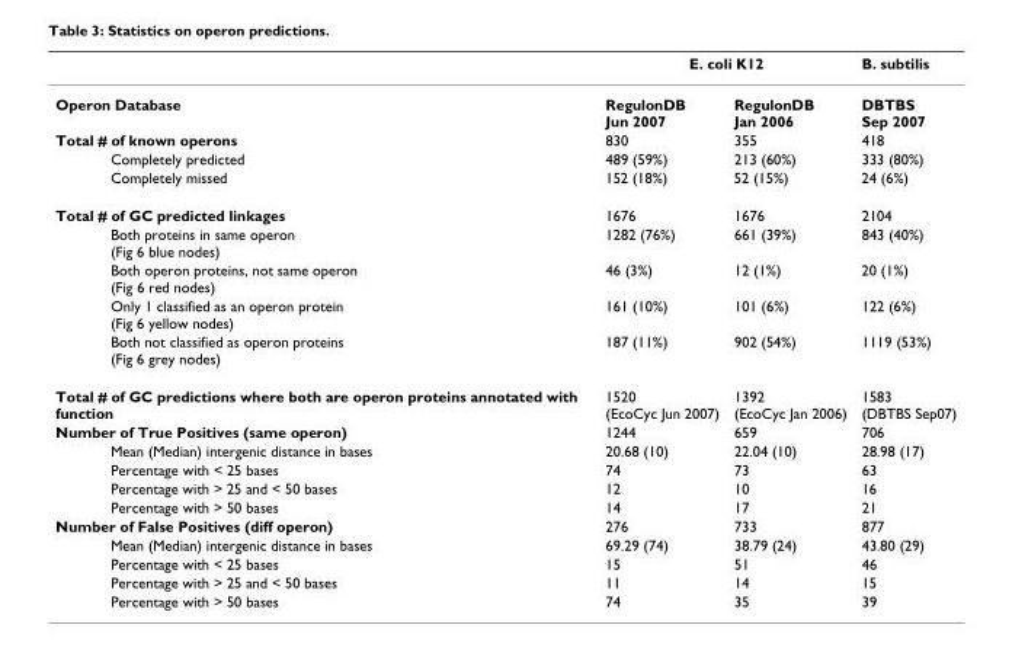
<table><thead><tr><td rowspan="2">Operon Database</td><td colspan="2">E. coli K12</td><td rowspan="2">B. subtilis DBTBS Sep 2007</td></tr><tr><td>RegulonDB Jun 2007</td><td>RegulonDB Jan 2006</td></tr></thead><tbody><tr><td>Total # of known operons</td><td>830</td><td>355</td><td>418</td></tr><tr><td>Completely predicted</td><td>489 (59%)</td><td>213 (60%)</td><td>333 (80%)</td></tr><tr><td>Completely missed</td><td>152 (18%)</td><td>52 (15%)</td><td>24 (6%)</td></tr><tr><td>Total # of GC predicted linkages</td><td>1676</td><td>1676</td><td>2104</td></tr><tr><td>Both proteins in same operon (Fig 6 blue nodes)</td><td>1282 (76%)</td><td>661 (39%)</td><td>843 (40%)</td></tr><tr><td>Both operon proteins, not same operon (Fig 6 red nodes)</td><td>46 (3%)</td><td>12 (1%)</td><td>20 (1%)</td></tr><tr><td>Only 1 classified as an operon protein (Fig 6 yellow nodes)</td><td>161 (10%)</td><td>101 (6%)</td><td>122 (6%)</td></tr><tr><td>Both not classified as operon proteins (Fig 6 grey nodes)</td><td>187 (11%)</td><td>902 (54%)</td><td>1119 (53%)</td></tr><tr><td>Total # of GC predictions where both are operon proteins annotated with function</td><td>1520 (EcoCyc Jun 2007)</td><td>1392 (EcoCyc Jan 2006)</td><td>1583 (DBTBS Sep07)</td></tr><tr><td>Number of True Positives (same operon)</td><td>1244</td><td>659</td><td>706</td></tr><tr><td>Mean (Median) intergenic distance in bases</td><td>20.68 (10)</td><td>22.04 (10)</td><td>28.98 (17)</td></tr><tr><td>Percentage with &lt; 25 bases</td><td>74</td><td>73</td><td>63</td></tr><tr><td>Percentage with &gt; 25 and &lt; 50 bases</td><td>12</td><td>10</td><td>16</td></tr><tr><td>Percentage with &gt; 50 bases</td><td>14</td><td>17</td><td>21</td></tr><tr><td>Number of False Positives (diff operon)</td><td>276</td><td>733</td><td>877</td></tr><tr><td>Mean (Median) intergenic distance in bases</td><td>69.29 (74)</td><td>38.79 (24)</td><td>43.80 (29)</td></tr><tr><td>Percentage with &lt; 25 bases</td><td>15</td><td>51</td><td>46</td></tr><tr><td>Percentage with &gt; 25 and &lt; 50 bases</td><td>11</td><td>14</td><td>15</td></tr><tr><td>Percentage with &gt; 50 bases</td><td>74</td><td>35</td><td>39</td></tr></tbody></table>